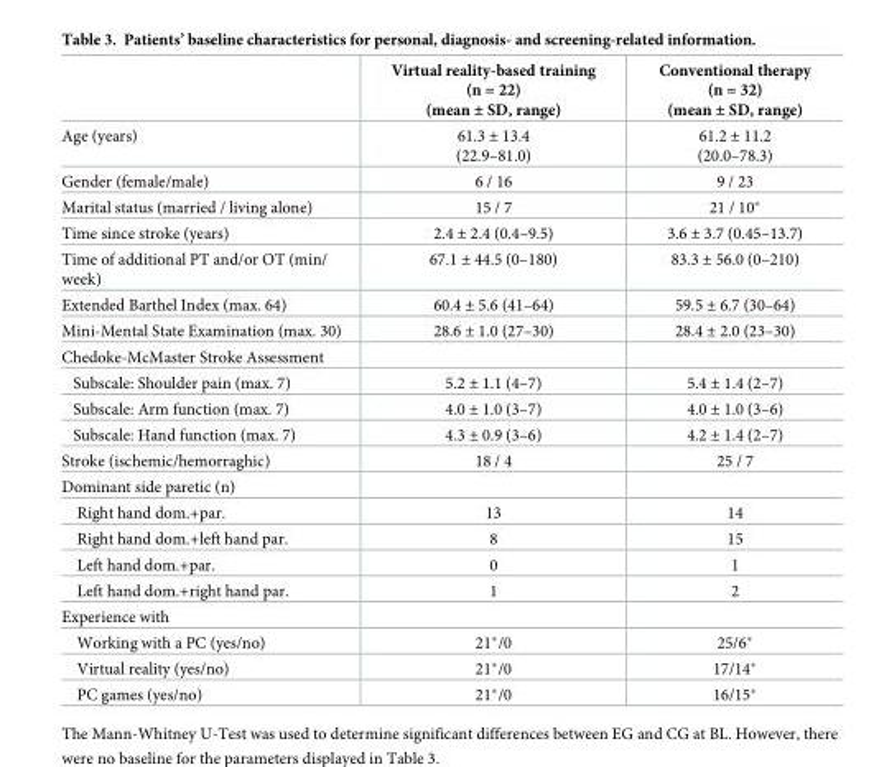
<table><thead><tr><td></td><td>Virtual reality-based training (n = 22) (mean ± SD, range)</td><td>Conventional therapy (n = 32) (mean ± SD, range)</td></tr></thead><tbody><tr><td>Age (years)</td><td>61.3 ± 13.4 (22.9–81.0)</td><td>61.2 ± 11.2 (20.0–78.3)</td></tr><tr><td>Gender (female/male)</td><td>6 / 16</td><td>9 / 23</td></tr><tr><td>Marital status (married / living alone)</td><td>15 / 7</td><td>21 / 10*</td></tr><tr><td>Time since stroke (years)</td><td>2.4 ± 2.4 (0.4–9.5)</td><td>3.6 ± 3.7 (0.45–13.7)</td></tr><tr><td>Time of additional PT and/or OT (min/ week)</td><td>67.1 ± 44.5 (0–180)</td><td>83.3 ± 56.0 (0–210)</td></tr><tr><td>Extended Barthel Index (max. 64)</td><td>60.4 ± 5.6 (41–64)</td><td>59.5 ± 6.7 (30–64)</td></tr><tr><td>Mini-Mental State Examination (max. 30)</td><td>28.6 ± 1.0 (27–30)</td><td>28.4 ± 2.0 (23–30)</td></tr><tr><td colspan="3">Chedoke-McMaster Stroke Assessment</td></tr><tr><td>Subscale: Shoulder pain (max. 7)</td><td>5.2 ± 1.1 (4–7)</td><td>5.4 ± 1.4 (2–7)</td></tr><tr><td>Subscale: Arm function (max. 7)</td><td>4.0 ± 1.0 (3–7)</td><td>4.0 ± 1.0 (3–6)</td></tr><tr><td>Subscale: Hand function (max. 7)</td><td>4.3 ± 0.9 (3–6)</td><td>4.2 ± 1.4 (2–7)</td></tr><tr><td>Stroke (ischemic/hemorraghic)</td><td>18 / 4</td><td>25 / 7</td></tr><tr><td colspan="3">Dominant side paretic (n)</td></tr><tr><td>Right hand dom.+par.</td><td>13</td><td>14</td></tr><tr><td>Right hand dom.+left hand par.</td><td>8</td><td>15</td></tr><tr><td>Left hand dom.+par.</td><td>0</td><td>1</td></tr><tr><td>Left hand dom.+right hand par.</td><td>1</td><td>2</td></tr><tr><td colspan="3">Experience with</td></tr><tr><td>Working with a PC (yes/no)</td><td>21*/0</td><td>25/6*</td></tr><tr><td>Virtual reality (yes/no)</td><td>21*/0</td><td>17/14*</td></tr><tr><td>PC games (yes/no)</td><td>21*/0</td><td>16/15*</td></tr></tbody></table>